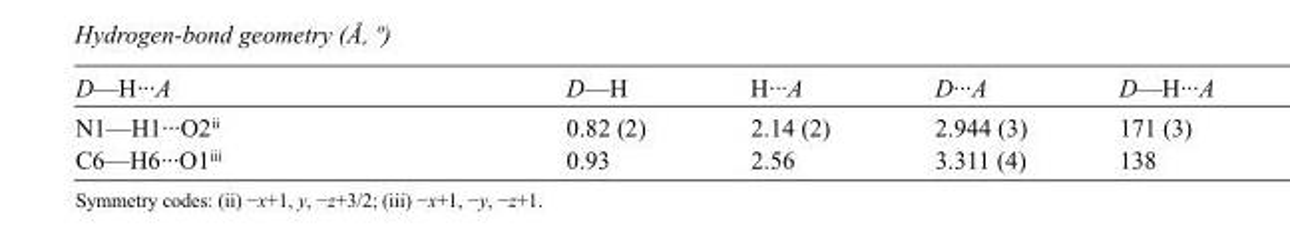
<table><tbody><tr><td>D—H···A</td><td>D—H</td><td>H···A</td><td>D···A</td><td>D—H···A</td></tr><tr><td>N1—H1···O2<sup>ii</sup></td><td>0.82 (2)</td><td>2.14 (2)</td><td>2.944 (3)</td><td>171 (3)</td></tr><tr><td>C6—H6···O1<sup>iii</sup></td><td>0.93</td><td>2.56</td><td>3.311 (4)</td><td>138</td></tr></tbody></table>